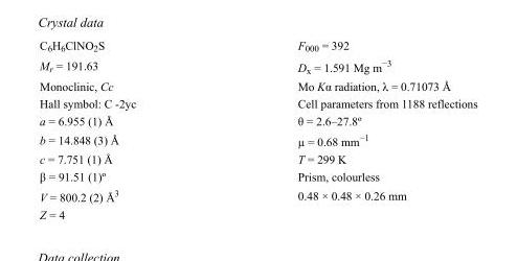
<table><tbody><tr><td>C<sub>6</sub>H<sub>6</sub>ClNO<sub>2</sub>S</td><td>F000 = 392</td></tr><tr><td>M<sub>r</sub> = 191.63</td><td>D<sub>x</sub> = 1.591 Mg m<sup>−3</sup></td></tr><tr><td>Monoclinic, Cc</td><td>Mo Kα radiation, λ = 0.71073 Å</td></tr><tr><td>Hall symbol: C -2yc</td><td>Cell parameters from 1188 reflections</td></tr><tr><td>a = 6.955 (1) Å</td><td>θ = 2.6–27.8º</td></tr><tr><td>b = 14.848 (3) Å</td><td>µ = 0.68 mm<sup>−1</sup></td></tr><tr><td>c = 7.751 (1) Å</td><td>T = 299 K</td></tr><tr><td>β = 91.51 (1)º</td><td>Prism, colourless</td></tr><tr><td>V = 800.2 (2) Å<sup>3</sup></td><td>0.48 × 0.48 × 0.26 mm</td></tr><tr><td>Z = 4</td><td></td></tr></tbody></table>